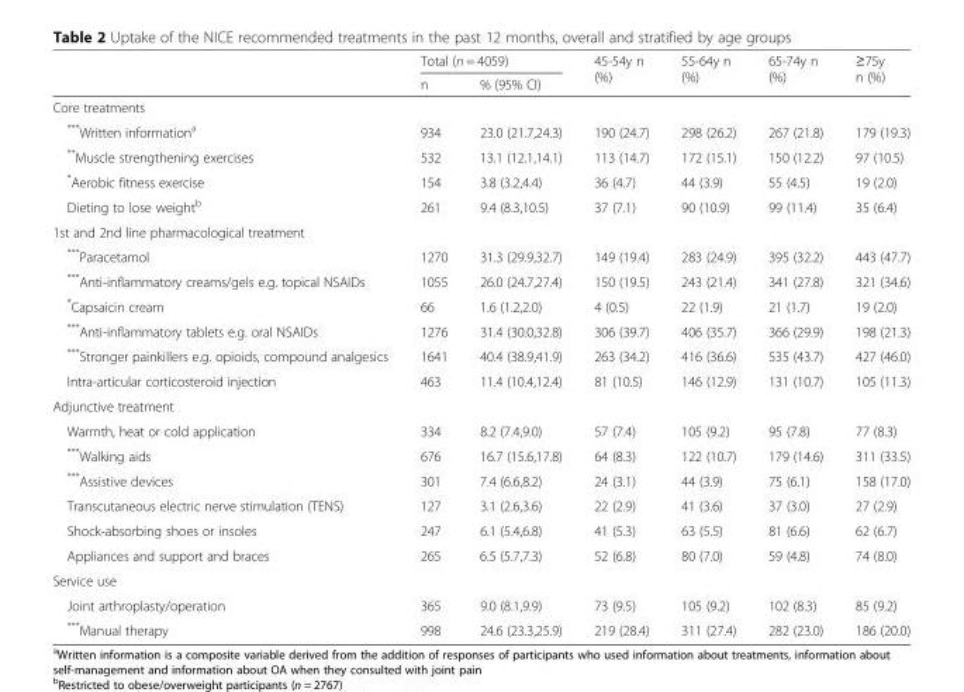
<table><thead><tr><td rowspan="2"></td><td colspan="2">Total (n = 4059)</td><td rowspan="2">45-54y n (%)</td><td rowspan="2">55-64y n (%)</td><td rowspan="2">65-74y n (%)</td><td rowspan="2">≥75y n (%)</td></tr><tr><td>n</td><td>% (95% CI)</td></tr></thead><tbody><tr><td colspan="7">Core treatments</td></tr><tr><td>***Written information<sup>a</sup></td><td>934</td><td>23.0 (21.7,24.3)</td><td>190 (24.7)</td><td>298 (26.2)</td><td>267 (21.8)</td><td>179 (19.3)</td></tr><tr><td>**Muscle strengthening exercises</td><td>532</td><td>13.1 (12.1,14.1)</td><td>113 (14.7)</td><td>172 (15.1)</td><td>150 (12.2)</td><td>97 (10.5)</td></tr><tr><td>*Aerobic fitness exercise</td><td>154</td><td>3.8 (3.2,4.4)</td><td>36 (4.7)</td><td>44 (3.9)</td><td>55 (4.5)</td><td>19 (2.0)</td></tr><tr><td>Dieting to lose weight<sup>b</sup></td><td>261</td><td>9.4 (8.3,10.5)</td><td>37 (7.1)</td><td>90 (10.9)</td><td>99 (11.4)</td><td>35 (6.4)</td></tr><tr><td colspan="7">1st and 2nd line pharmacological treatment</td></tr><tr><td>***Paracetamol</td><td>1270</td><td>31.3 (29.9,32.7)</td><td>149 (19.4)</td><td>283 (24.9)</td><td>395 (32.2)</td><td>443 (47.7)</td></tr><tr><td>***Anti-inflammatory creams/gels e.g. topical NSAIDs</td><td>1055</td><td>26.0 (24.7,27.4)</td><td>150 (19.5)</td><td>243 (21.4)</td><td>341 (27.8)</td><td>321 (34.6)</td></tr><tr><td>*Capsaicin cream</td><td>66</td><td>1.6 (1.2,2.0)</td><td>4 (0.5)</td><td>22 (1.9)</td><td>21 (1.7)</td><td>19 (2.0)</td></tr><tr><td>***Anti-inflammatory tablets e.g. oral NSAIDs</td><td>1276</td><td>31.4 (30.0,32.8)</td><td>306 (39.7)</td><td>406 (35.7)</td><td>366 (29.9)</td><td>198 (21.3)</td></tr><tr><td>***Stronger painkillers e.g. opioids, compound analgesics</td><td>1641</td><td>40.4 (38.9,41.9)</td><td>263 (34.2)</td><td>416 (36.6)</td><td>535 (43.7)</td><td>427 (46.0)</td></tr><tr><td>Intra-articular corticosteroid injection</td><td>463</td><td>11.4 (10.4,12.4)</td><td>81 (10.5)</td><td>146 (12.9)</td><td>131 (10.7)</td><td>105 (11.3)</td></tr><tr><td colspan="7">Adjunctive treatment</td></tr><tr><td>Warmth, heat or cold application</td><td>334</td><td>8.2 (7.4,9.0)</td><td>57 (7.4)</td><td>105 (9.2)</td><td>95 (7.8)</td><td>77 (8.3)</td></tr><tr><td>***Walking aids</td><td>676</td><td>16.7 (15.6,17.8)</td><td>64 (8.3)</td><td>122 (10.7)</td><td>179 (14.6)</td><td>311 (33.5)</td></tr><tr><td>***Assistive devices</td><td>301</td><td>7.4 (6.6,8.2)</td><td>24 (3.1)</td><td>44 (3.9)</td><td>75 (6.1)</td><td>158 (17.0)</td></tr><tr><td>Transcutaneous electric nerve stimulation (TENS)</td><td>127</td><td>3.1 (2.6,3.6)</td><td>22 (2.9)</td><td>41 (3.6)</td><td>37 (3.0)</td><td>27 (2.9)</td></tr><tr><td>Shock-absorbing shoes or insoles</td><td>247</td><td>6.1 (5.4,6.8)</td><td>41 (5.3)</td><td>63 (5.5)</td><td>81 (6.6)</td><td>62 (6.7)</td></tr><tr><td>Appliances and support and braces</td><td>265</td><td>6.5 (5.7,7.3)</td><td>52 (6.8)</td><td>80 (7.0)</td><td>59 (4.8)</td><td>74 (8.0)</td></tr><tr><td colspan="7">Service use</td></tr><tr><td>Joint arthroplasty/operation</td><td>365</td><td>9.0 (8.1,9.9)</td><td>73 (9.5)</td><td>105 (9.2)</td><td>102 (8.3)</td><td>85 (9.2)</td></tr><tr><td>***Manual therapy</td><td>998</td><td>24.6 (23.3,25.9)</td><td>219 (28.4)</td><td>311 (27.4)</td><td>282 (23.0)</td><td>186 (20.0)</td></tr></tbody></table>